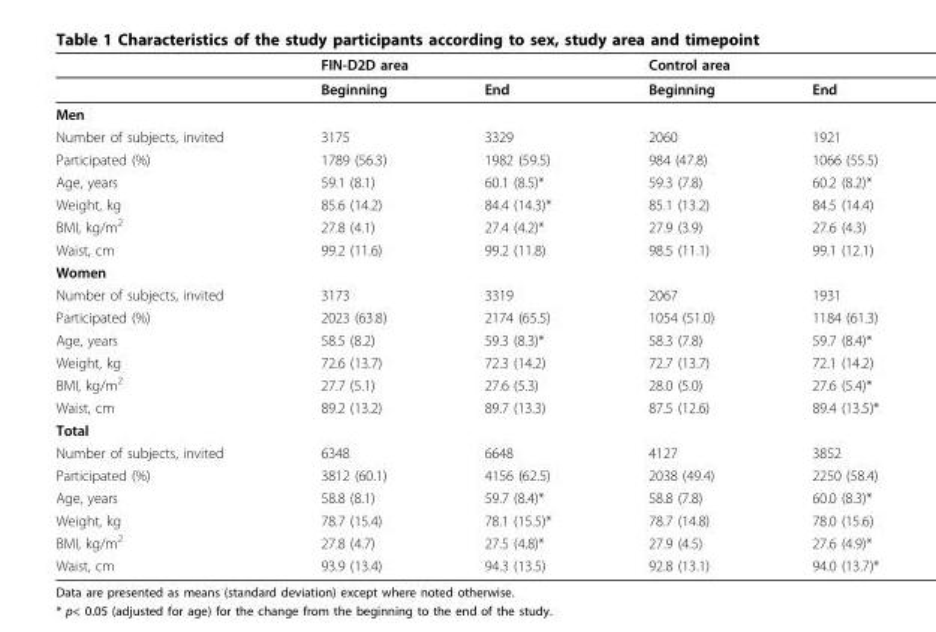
<table><thead><tr><td rowspan="2"></td><td colspan="2">FIN-D2D area</td><td colspan="2">Control area</td></tr><tr><td>Beginning</td><td>End</td><td>Beginning</td><td>End</td></tr></thead><tbody><tr><td colspan="5">Men</td></tr><tr><td>Number of subjects, invited</td><td>3175</td><td>3329</td><td>2060</td><td>1921</td></tr><tr><td>Participated (%)</td><td>1789 (56.3)</td><td>1982 (59.5)</td><td>984 (47.8)</td><td>1066 (55.5)</td></tr><tr><td>Age, years</td><td>59.1 (8.1)</td><td>60.1 (8.5)*</td><td>59.3 (7.8)</td><td>60.2 (8.2)*</td></tr><tr><td>Weight, kg</td><td>85.6 (14.2)</td><td>84.4 (14.3)*</td><td>85.1 (13.2)</td><td>84.5 (14.4)</td></tr><tr><td>BMI, kg/m<sup>2</sup></td><td>27.8 (4.1)</td><td>27.4 (4.2)*</td><td>27.9 (3.9)</td><td>27.6 (4.3)</td></tr><tr><td>Waist, cm</td><td>99.2 (11.6)</td><td>99.2 (11.8)</td><td>98.5 (11.1)</td><td>99.1 (12.1)</td></tr><tr><td colspan="5">Women</td></tr><tr><td>Number of subjects, invited</td><td>3173</td><td>3319</td><td>2067</td><td>1931</td></tr><tr><td>Participated (%)</td><td>2023 (63.8)</td><td>2174 (65.5)</td><td>1054 (51.0)</td><td>1184 (61.3)</td></tr><tr><td>Age, years</td><td>58.5 (8.2)</td><td>59.3 (8.3)*</td><td>58.3 (7.8)</td><td>59.7 (8.4)*</td></tr><tr><td>Weight, kg</td><td>72.6 (13.7)</td><td>72.3 (14.2)</td><td>72.7 (13.7)</td><td>72.1 (14.2)</td></tr><tr><td>BMI, kg/m<sup>2</sup></td><td>27.7 (5.1)</td><td>27.6 (5.3)</td><td>28.0 (5.0)</td><td>27.6 (5.4)*</td></tr><tr><td>Waist, cm</td><td>89.2 (13.2)</td><td>89.7 (13.3)</td><td>87.5 (12.6)</td><td>89.4 (13.5)*</td></tr><tr><td colspan="5">Total</td></tr><tr><td>Number of subjects, invited</td><td>6348</td><td>6648</td><td>4127</td><td>3852</td></tr><tr><td>Participated (%)</td><td>3812 (60.1)</td><td>4156 (62.5)</td><td>2038 (49.4)</td><td>2250 (58.4)</td></tr><tr><td>Age, years</td><td>58.8 (8.1)</td><td>59.7 (8.4)*</td><td>58.8 (7.8)</td><td>60.0 (8.3)*</td></tr><tr><td>Weight, kg</td><td>78.7 (15.4)</td><td>78.1 (15.5)*</td><td>78.7 (14.8)</td><td>78.0 (15.6)</td></tr><tr><td>BMI, kg/m<sup>2</sup></td><td>27.8 (4.7)</td><td>27.5 (4.8)*</td><td>27.9 (4.5)</td><td>27.6 (4.9)*</td></tr><tr><td>Waist, cm</td><td>93.9 (13.4)</td><td>94.3 (13.5)</td><td>92.8 (13.1)</td><td>94.0 (13.7)*</td></tr></tbody></table>